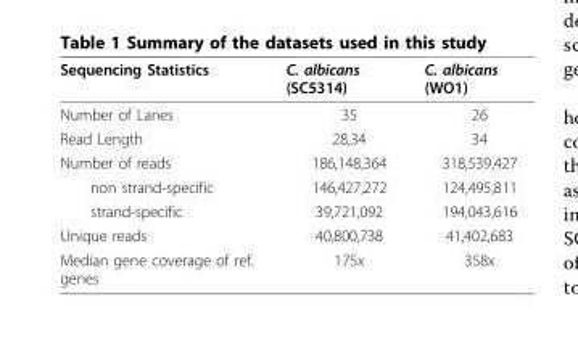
<table><thead><tr><td>Sequencing Statistics</td><td>C. albicans (SC5314)</td><td>C. albicans (WO1)</td></tr></thead><tbody><tr><td>Number of Lanes</td><td>35</td><td>26</td></tr><tr><td>Read Length</td><td>28,34</td><td>34</td></tr><tr><td>Number of reads</td><td>186,148,364</td><td>318,539,427</td></tr><tr><td>non strand-specific</td><td>146,427,272</td><td>124,495,811</td></tr><tr><td>strand-specific</td><td>39,721,092</td><td>194,043,616</td></tr><tr><td>Unique reads</td><td>40,800,738</td><td>41,402,683</td></tr><tr><td>Median gene coverage of ref. genes</td><td>175x</td><td>358x</td></tr></tbody></table>